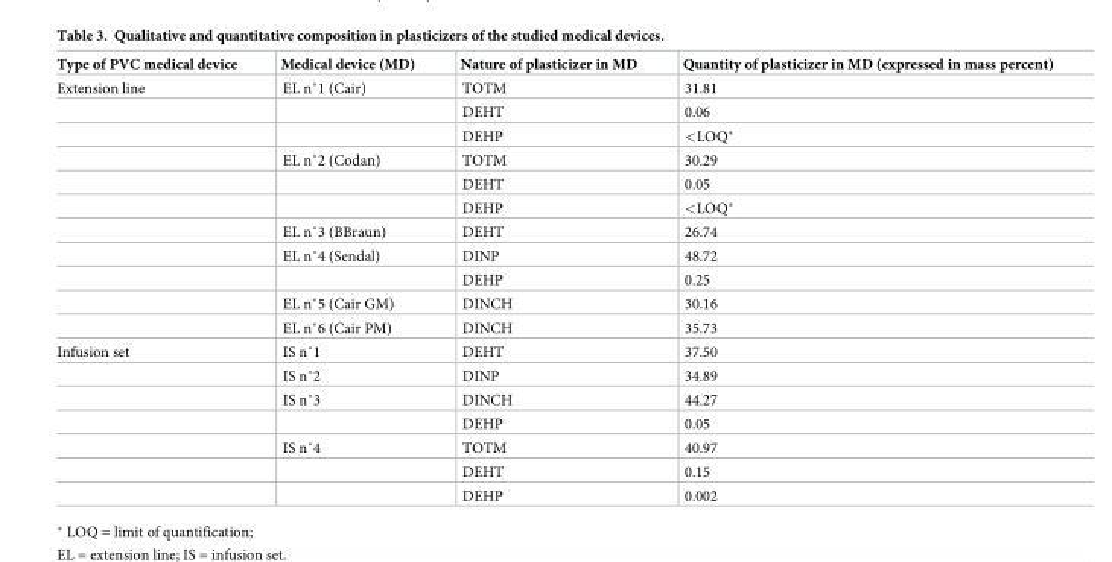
<table><thead><tr><td>Type of PVC medical device</td><td>Medical device (MD)</td><td>Nature of plasticizer in MD</td><td>Quantity of plasticizer in MD (expressed in mass percent)</td></tr></thead><tbody><tr><td rowspan="11">Extension line</td><td>EL n˚1 (Cair)</td><td>TOTM</td><td>31.81</td></tr><tr><td></td><td>DEHT</td><td>0.06</td></tr><tr><td></td><td>DEHP</td><td>&lt;LOQ*</td></tr><tr><td>EL n˚2 (Codan)</td><td>TOTM</td><td>30.29</td></tr><tr><td></td><td>DEHT</td><td>0.05</td></tr><tr><td></td><td>DEHP</td><td>&lt;LOQ*</td></tr><tr><td>EL n˚3 (BBraun)</td><td>DEHT</td><td>26.74</td></tr><tr><td>EL n˚4 (Sendal)</td><td>DINP</td><td>48.72</td></tr><tr><td></td><td>DEHP</td><td>0.25</td></tr><tr><td>EL n˚5 (Cair GM)</td><td>DINCH</td><td>30.16</td></tr><tr><td>EL n˚6 (Cair PM)</td><td>DINCH</td><td>35.73</td></tr><tr><td rowspan="7">Infusion set</td><td>IS n˚1</td><td>DEHT</td><td>37.50</td></tr><tr><td>IS n˚2</td><td>DINP</td><td>34.89</td></tr><tr><td>IS n˚3</td><td>DINCH</td><td>44.27</td></tr><tr><td></td><td>DEHP</td><td>0.05</td></tr><tr><td>IS n˚4</td><td>TOTM</td><td>40.97</td></tr><tr><td></td><td>DEHT</td><td>0.15</td></tr><tr><td></td><td>DEHP</td><td>0.002</td></tr></tbody></table>